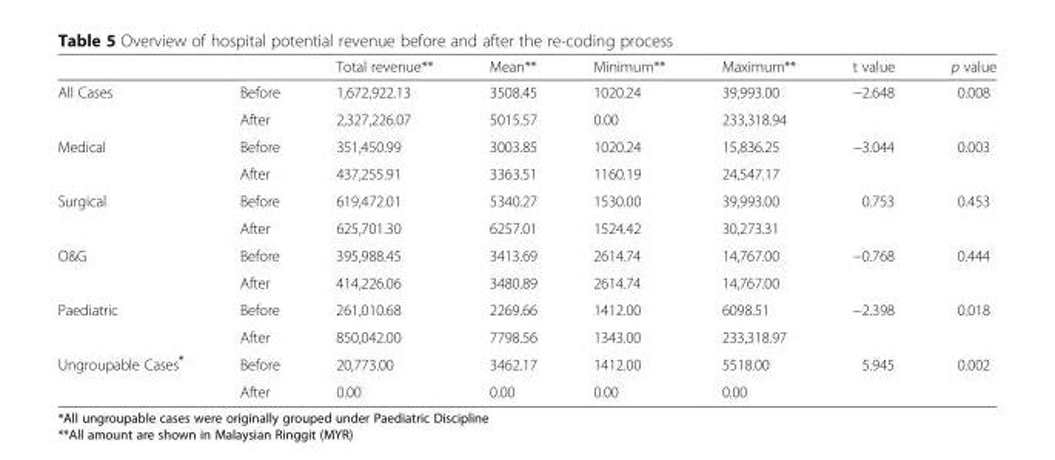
<table><thead><tr><td></td><td></td><td>Total revenue**</td><td>Mean**</td><td>Minimum**</td><td>Maximum**</td><td>t value</td><td>p value</td></tr></thead><tbody><tr><td rowspan="2">All Cases</td><td>Before</td><td>1,672,922.13</td><td>3508.45</td><td>1020.24</td><td>39,993.00</td><td rowspan="2">−2.648</td><td rowspan="2">0.008</td></tr><tr><td>After</td><td>2,327,226.07</td><td>5015.57</td><td>0.00</td><td>233,318.94</td></tr><tr><td rowspan="2">Medical</td><td>Before</td><td>351,450.99</td><td>3003.85</td><td>1020.24</td><td>15,836.25</td><td rowspan="2">−3.044</td><td rowspan="2">0.003</td></tr><tr><td>After</td><td>437,255.91</td><td>3363.51</td><td>1160.19</td><td>24,547.17</td></tr><tr><td rowspan="2">Surgical</td><td>Before</td><td>619,472.01</td><td>5340.27</td><td>1530.00</td><td>39,993.00</td><td rowspan="2">0.753</td><td rowspan="2">0.453</td></tr><tr><td>After</td><td>625,701.30</td><td>6257.01</td><td>1524.42</td><td>30,273.31</td></tr><tr><td rowspan="2">O&amp;G</td><td>Before</td><td>395,988.45</td><td>3413.69</td><td>2614.74</td><td>14,767.00</td><td rowspan="2">−0.768</td><td rowspan="2">0.444</td></tr><tr><td>After</td><td>414,226.06</td><td>3480.89</td><td>2614.74</td><td>14,767.00</td></tr><tr><td rowspan="2">Paediatric</td><td>Before</td><td>261,010.68</td><td>2269.66</td><td>1412.00</td><td>6098.51</td><td rowspan="2">−2.398</td><td rowspan="2">0.018</td></tr><tr><td>After</td><td>850,042.00</td><td>7798.56</td><td>1343.00</td><td>233,318.97</td></tr><tr><td rowspan="2">Ungroupable Cases*</td><td>Before</td><td>20,773.00</td><td>3462.17</td><td>1412.00</td><td>5518.00</td><td rowspan="2">5.945</td><td rowspan="2">0.002</td></tr><tr><td>After</td><td>0.00</td><td>0.00</td><td>0.00</td><td>0.00</td></tr></tbody></table>